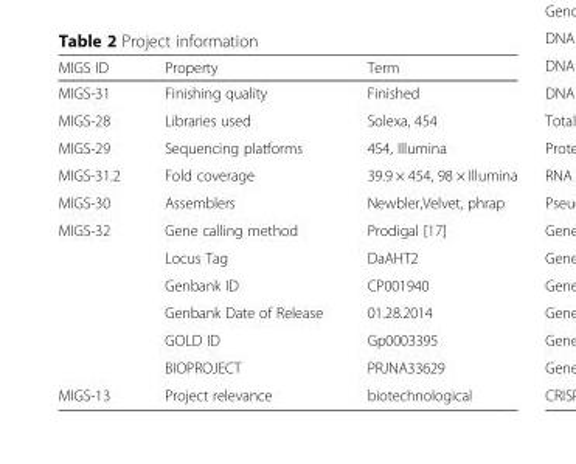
<table><thead><tr><td>MIGS ID</td><td>Property</td><td>Term</td></tr></thead><tbody><tr><td>MIGS-31</td><td>Finishing quality</td><td>Finished</td></tr><tr><td>MIGS-28</td><td>Libraries used</td><td>Solexa, 454</td></tr><tr><td>MIGS-29</td><td>Sequencing platforms</td><td>454, Illumina</td></tr><tr><td>MIGS-31.2</td><td>Fold coverage</td><td>39.9 × 454, 98 × Illumina</td></tr><tr><td>MIGS-30</td><td>Assemblers</td><td>Newbler,Velvet, phrap</td></tr><tr><td rowspan="6">MIGS-32</td><td>Gene calling method</td><td>Prodigal [17]</td></tr><tr><td>Locus Tag</td><td>DaAHT2</td></tr><tr><td>Genbank ID</td><td>CP001940</td></tr><tr><td>Genbank Date of Release</td><td>01.28.2014</td></tr><tr><td>GOLD ID</td><td>Gp0003395</td></tr><tr><td>BIOPROJECT</td><td>PRJNA33629</td></tr><tr><td>MIGS-13</td><td>Project relevance</td><td>biotechnological</td></tr></tbody></table>